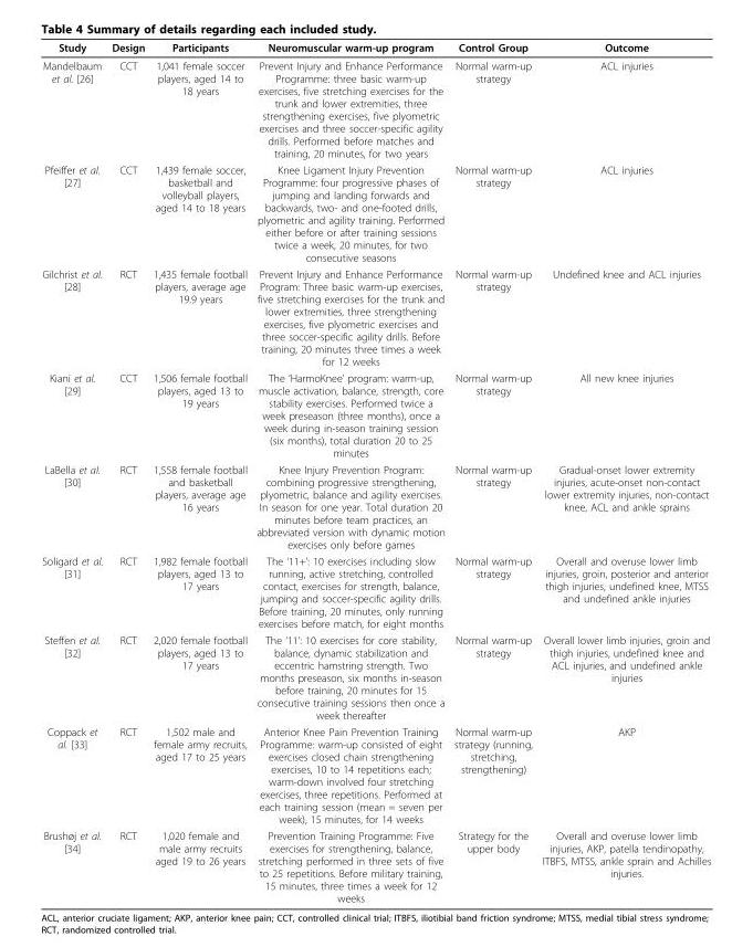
<table><thead><tr><td>Study</td><td>Design</td><td>Participants</td><td>Neuromuscular warm-up program</td><td>Control Group</td><td>Outcome</td></tr></thead><tbody><tr><td>Mandelbaum et al. [26]</td><td>CCT</td><td>1,041 female soccer players, aged 14 to 18 years</td><td>Prevent Injury and Enhance Performance Programme: three basic warm-up exercises, five stretching exercises for the trunk and lower extremities, three strengthening exercises, five plyometric exercises and three soccer-specific agility drills. Performed before matches and training, 20 minutes, for two years</td><td>Normal warm-up strategy</td><td>ACL injuries</td></tr><tr><td>Pfeiffer et al. [27]</td><td>CCT</td><td>1,439 female soccer, basketball and volleyball players, aged 14 to 18 years</td><td>Knee Ligament Injury Prevention Programme: four progressive phases of jumping and landing forwards and backwards, two- and one-footed drills, plyometric and agility training. Performed either before or after training sessions twice a week, 20 minutes, for two consecutive seasons</td><td>Normal warm-up strategy</td><td>ACL injuries</td></tr><tr><td>Gilchrist et al. [28]</td><td>RCT</td><td>1,435 female football players, average age 19.9 years</td><td>Prevent Injury and Enhance Performance Program: Three basic warm-up exercises, five stretching exercises for the trunk and lower extremities, three strengthening exercises, five plyometric exercises and three soccer-specific agility drills. Before training, 20 minutes three times a week for 12 weeks</td><td>Normal warm-up strategy</td><td>Undefined knee and ACL injuries</td></tr><tr><td>Kiani et al. [29]</td><td>CCT</td><td>1,506 female football players, aged 13 to 19 years</td><td>The ‘HarmoKnee’ program: warm-up, muscle activation, balance, strength, core stability exercises. Performed twice a week preseason (three months), once a week during in-season training session (six months), total duration 20 to 25 minutes</td><td>Normal warm-up strategy</td><td>All new knee injuries</td></tr><tr><td>LaBella et al. [30]</td><td>RCT</td><td>1,558 female football and basketball players, average age 16 years</td><td>Knee Injury Prevention Program: combining progressive strengthening, plyometric, balance and agility exercises. In season for one year. Total duration 20 minutes before team practices, an abbreviated version with dynamic motion exercises only before games</td><td>Normal warm-up strategy</td><td>Gradual-onset lower extremity injuries, acute-onset non-contact lower extremity injuries, non-contact knee, ACL and ankle sprains</td></tr><tr><td>Soligard et al. [31]</td><td>RCT</td><td>1,982 female football players, aged 13 to 17 years</td><td>The ‘11+’: 10 exercises including slow running, active stretching, controlled contact, exercises for strength, balance, jumping and soccer-specific agility drills. Before training, 20 minutes, only running exercises before match, for eight months</td><td>Normal warm-up strategy</td><td>Overall and overuse lower limb injuries, groin, posterior and anterior thigh injuries, undefined knee, MTSS and undefined ankle injuries</td></tr><tr><td>Steffen et al. [32]</td><td>RCT</td><td>2,020 female football players, aged 13 to 17 years</td><td>The ‘11’: 10 exercises for core stability, balance, dynamic stabilization and eccentric hamstring strength. Two months preseason, six months in-season before training, 20 minutes for 15 consecutive training sessions then once a week thereafter</td><td>Normal warm-up strategy</td><td>Overall lower limb injuries, groin and thigh injuries, undefined knee and ACL injuries, and undefined ankle injuries</td></tr><tr><td>Coppack et al. [33]</td><td>RCT</td><td>1,502 male and female army recruits, aged 17 to 25 years</td><td>Anterior Knee Pain Prevention Training Programme: warm-up consisted of eight exercises closed chain strengthening exercises, 10 to 14 repetitions each; warm-down involved four stretching exercises, three repetitions. Performed at each training session (mean = seven per week), 15 minutes, for 14 weeks</td><td>Normal warm-up strategy (running, stretching, strengthening)</td><td>AKP</td></tr><tr><td>Brushøj et al. [34]</td><td>RCT</td><td>1,020 female and male army recruits aged 19 to 26 years</td><td>Prevention Training Programme: Five exercises for strengthening, balance, stretching performed in three sets of five to 25 repetitions. Before military training, 15 minutes, three times a week for 12 weeks</td><td>Strategy for the upper body</td><td>Overall and overuse lower limb injuries, AKP, patella tendinopathy, ITBFS, MTSS, ankle sprain and Achilles injuries.</td></tr></tbody></table>